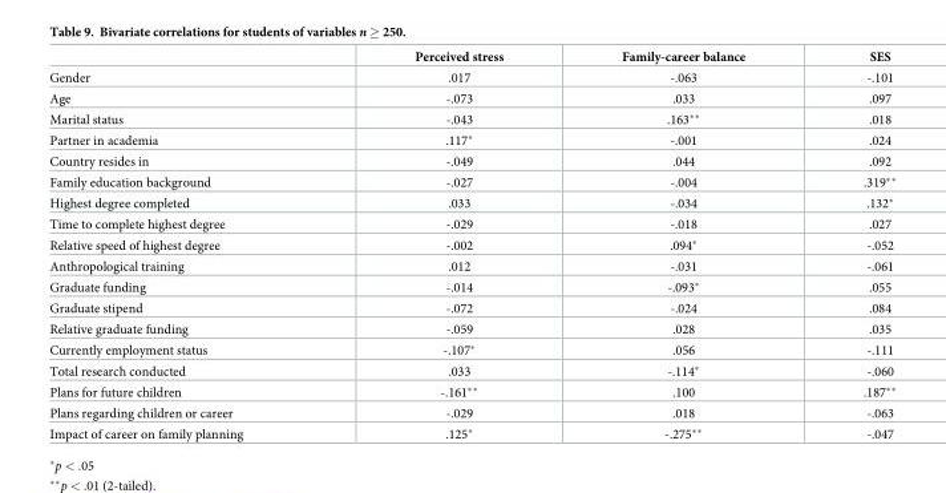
<table><thead><tr><td></td><td>Perceived stress</td><td>Family-career balance</td><td>SES</td></tr></thead><tbody><tr><td>Gender</td><td>.017</td><td>-.063</td><td>-.101</td></tr><tr><td>Age</td><td>-.073</td><td>.033</td><td>.097</td></tr><tr><td>Marital status</td><td>-.043</td><td>.163**</td><td>.018</td></tr><tr><td>Partner in academia</td><td>.117*</td><td>-.001</td><td>.024</td></tr><tr><td>Country resides in</td><td>-.049</td><td>.044</td><td>.092</td></tr><tr><td>Family education background</td><td>-.027</td><td>-.004</td><td>.319**</td></tr><tr><td>Highest degree completed</td><td>.033</td><td>-.034</td><td>.132*</td></tr><tr><td>Time to complete highest degree</td><td>-.029</td><td>-.018</td><td>.027</td></tr><tr><td>Relative speed of highest degree</td><td>-.002</td><td>.094*</td><td>-.052</td></tr><tr><td>Anthropological training</td><td>.012</td><td>-.031</td><td>-.061</td></tr><tr><td>Graduate funding</td><td>-.014</td><td>-.093*</td><td>.055</td></tr><tr><td>Graduate stipend</td><td>-.072</td><td>-.024</td><td>.084</td></tr><tr><td>Relative graduate funding</td><td>-.059</td><td>.028</td><td>.035</td></tr><tr><td>Currently employment status</td><td>-.107*</td><td>.056</td><td>-.111</td></tr><tr><td>Total research conducted</td><td>.033</td><td>-.114*</td><td>-.060</td></tr><tr><td>Plans for future children</td><td>-.161**</td><td>.100</td><td>.187**</td></tr><tr><td>Plans regarding children or career</td><td>-.029</td><td>.018</td><td>-.063</td></tr><tr><td>Impact of career on family planning</td><td>.125*</td><td>-.275**</td><td>-.047</td></tr></tbody></table>